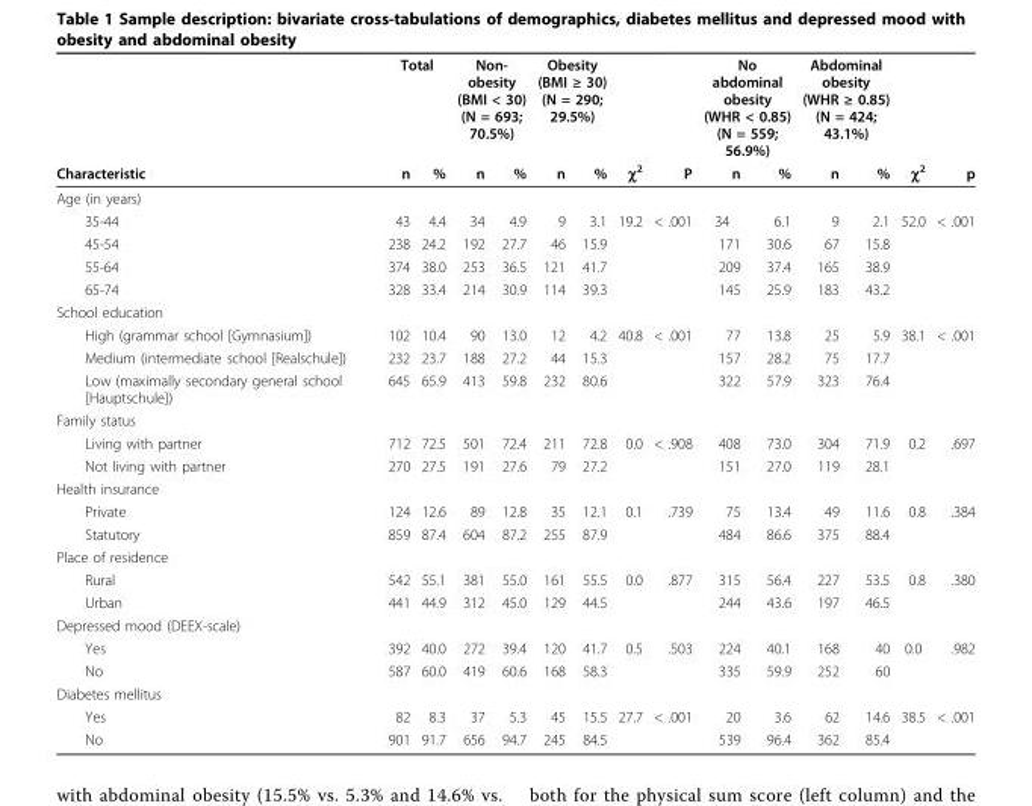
<table><thead><tr><td rowspan="2">Characteristic</td><td colspan="2">Total</td><td colspan="2">Non- obesity (BMI &lt; 30) (N = 693; 70.5%)</td><td colspan="2">Obesity (BMI ≥ 30) (N = 290; 29.5%)</td><td rowspan="2">χ<sup>2</sup></td><td rowspan="2">P</td><td colspan="2">No abdominal obesity (WHR &lt; 0.85) (N = 559; 56.9%)</td><td colspan="2">Abdominal obesity (WHR ≥ 0.85) (N = 424; 43.1%)</td><td rowspan="2">χ<sup>2</sup></td><td rowspan="2">p</td></tr><tr><td>n</td><td>%</td><td>n</td><td>%</td><td>n</td><td>%</td><td>n</td><td>%</td><td>n</td><td>%</td></tr></thead><tbody><tr><td colspan="15">Age (in years)</td></tr><tr><td>35-44</td><td>43</td><td>4.4</td><td>34</td><td>4.9</td><td>9</td><td>3.1</td><td>19.2</td><td>&lt; .001</td><td>34</td><td>6.1</td><td>9</td><td>2.1</td><td>52.0</td><td>&lt; .001</td></tr><tr><td>45-54</td><td>238</td><td>24.2</td><td>192</td><td>27.7</td><td>46</td><td>15.9</td><td></td><td></td><td>171</td><td>30.6</td><td>67</td><td>15.8</td><td></td><td></td></tr><tr><td>55-64</td><td>374</td><td>38.0</td><td>253</td><td>36.5</td><td>121</td><td>41.7</td><td></td><td></td><td>209</td><td>37.4</td><td>165</td><td>38.9</td><td></td><td></td></tr><tr><td>65-74</td><td>328</td><td>33.4</td><td>214</td><td>30.9</td><td>114</td><td>39.3</td><td></td><td></td><td>145</td><td>25.9</td><td>183</td><td>43.2</td><td></td><td></td></tr><tr><td colspan="15">School education</td></tr><tr><td>High (grammar school [Gymnasium])</td><td>102</td><td>10.4</td><td>90</td><td>13.0</td><td>12</td><td>4.2</td><td>40.8</td><td>&lt; .001</td><td>77</td><td>13.8</td><td>25</td><td>5.9</td><td>38.1</td><td>&lt; .001</td></tr><tr><td>Medium (intermediate school [Realschule])</td><td>232</td><td>23.7</td><td>188</td><td>27.2</td><td>44</td><td>15.3</td><td></td><td></td><td>157</td><td>28.2</td><td>75</td><td>17.7</td><td></td><td></td></tr><tr><td>Low (maximally secondary general school [Hauptschule])</td><td>645</td><td>65.9</td><td>413</td><td>59.8</td><td>232</td><td>80.6</td><td></td><td></td><td>322</td><td>57.9</td><td>323</td><td>76.4</td><td></td><td></td></tr><tr><td colspan="15">Family status</td></tr><tr><td>Living with partner</td><td>712</td><td>72.5</td><td>501</td><td>72.4</td><td>211</td><td>72.8</td><td>0.0</td><td>&lt; .908</td><td>408</td><td>73.0</td><td>304</td><td>71.9</td><td>0.2</td><td>.697</td></tr><tr><td>Not living with partner</td><td>270</td><td>27.5</td><td>191</td><td>27.6</td><td>79</td><td>27.2</td><td></td><td></td><td>151</td><td>27.0</td><td>119</td><td>28.1</td><td></td><td></td></tr><tr><td colspan="15">Health insurance</td></tr><tr><td>Private</td><td>124</td><td>12.6</td><td>89</td><td>12.8</td><td>35</td><td>12.1</td><td>0.1</td><td>.739</td><td>75</td><td>13.4</td><td>49</td><td>11.6</td><td>0.8</td><td>.384</td></tr><tr><td>Statutory</td><td>859</td><td>87.4</td><td>604</td><td>87.2</td><td>255</td><td>87.9</td><td></td><td></td><td>484</td><td>86.6</td><td>375</td><td>88.4</td><td></td><td></td></tr><tr><td colspan="15">Place of residence</td></tr><tr><td>Rural</td><td>542</td><td>55.1</td><td>381</td><td>55.0</td><td>161</td><td>55.5</td><td>0.0</td><td>.877</td><td>315</td><td>56.4</td><td>227</td><td>53.5</td><td>0.8</td><td>.380</td></tr><tr><td>Urban</td><td>441</td><td>44.9</td><td>312</td><td>45.0</td><td>129</td><td>44.5</td><td></td><td></td><td>244</td><td>43.6</td><td>197</td><td>46.5</td><td></td><td></td></tr><tr><td colspan="15">Depressed mood (DEEX-scale)</td></tr><tr><td>Yes</td><td>392</td><td>40.0</td><td>272</td><td>39.4</td><td>120</td><td>41.7</td><td>0.5</td><td>.503</td><td>224</td><td>40.1</td><td>168</td><td>40</td><td>0.0</td><td>.982</td></tr><tr><td>No</td><td>587</td><td>60.0</td><td>419</td><td>60.6</td><td>168</td><td>58.3</td><td></td><td></td><td>335</td><td>59.9</td><td>252</td><td>60</td><td></td><td></td></tr><tr><td colspan="15">Diabetes mellitus</td></tr><tr><td>Yes</td><td>82</td><td>8.3</td><td>37</td><td>5.3</td><td>45</td><td>15.5</td><td>27.7</td><td>&lt; .001</td><td>20</td><td>3.6</td><td>62</td><td>14.6</td><td>38.5</td><td>&lt; .001</td></tr><tr><td>No</td><td>901</td><td>91.7</td><td>656</td><td>94.7</td><td>245</td><td>84.5</td><td></td><td></td><td>539</td><td>96.4</td><td>362</td><td>85.4</td><td></td><td></td></tr></tbody></table>